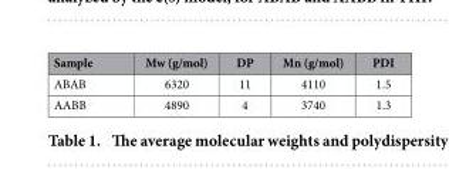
<table><thead><tr><td>Sample</td><td>Mw (g/mol)</td><td>DP</td><td>Mn (g/mol)</td><td>PDI</td></tr></thead><tbody><tr><td>ABAB</td><td>6320</td><td>11</td><td>4110</td><td>1.5</td></tr><tr><td>AABB</td><td>4890</td><td>4</td><td>3740</td><td>1.3</td></tr></tbody></table>